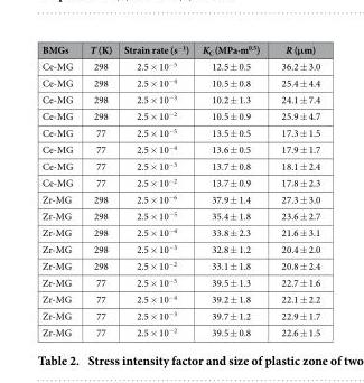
<table><thead><tr><td>BMGs</td><td>T (K)</td><td>Strain rate (s<sup>−1</sup>)</td><td>K<sub>C</sub> (MPa·m<sup>0.5</sup>)</td><td>R (μm)</td></tr></thead><tbody><tr><td>Ce-MG</td><td>298</td><td>2.5 × 10<sup>−5</sup></td><td>12.5 ± 0.5</td><td>36.2 ± 3.0</td></tr><tr><td>Ce-MG</td><td>298</td><td>2.5 × 10<sup>−4</sup></td><td>10.5 ± 0.8</td><td>25.4 ± 4.4</td></tr><tr><td>Ce-MG</td><td>298</td><td>2.5 × 10<sup>−3</sup></td><td>10.2 ± 1.3</td><td>24.1 ± 7.4</td></tr><tr><td>Ce-MG</td><td>298</td><td>2.5 × 10<sup>−2</sup></td><td>10.5 ± 0.9</td><td>25.9 ± 4.7</td></tr><tr><td>Ce-MG</td><td>77</td><td>2.5 × 10<sup>−5</sup></td><td>13.5 ± 0.5</td><td>17.3 ± 1.5</td></tr><tr><td>Ce-MG</td><td>77</td><td>2.5 × 10<sup>−4</sup></td><td>13.6 ± 0.5</td><td>17.9 ± 1.7</td></tr><tr><td>Ce-MG</td><td>77</td><td>2.5 × 10<sup>−3</sup></td><td>13.7 ± 0.8</td><td>18.1 ± 2.4</td></tr><tr><td>Ce-MG</td><td>77</td><td>2.5 × 10<sup>−2</sup></td><td>13.7 ± 0.9</td><td>17.8 ± 2.3</td></tr><tr><td>Zr-MG</td><td>298</td><td>2.5 × 10<sup>−6</sup></td><td>37.9 ± 1.4</td><td>27.3 ± 3.0</td></tr><tr><td>Zr-MG</td><td>298</td><td>2.5 × 10<sup>−5</sup></td><td>35.4 ± 1.8</td><td>23.6 ± 2.7</td></tr><tr><td>Zr-MG</td><td>298</td><td>2.5 × 10<sup>−4</sup></td><td>33.8 ± 2.3</td><td>21.6 ± 3.1</td></tr><tr><td>Zr-MG</td><td>298</td><td>2.5 × 10<sup>−3</sup></td><td>32.8 ± 1.2</td><td>20.4 ± 2.0</td></tr><tr><td>Zr-MG</td><td>298</td><td>2.5 × 10<sup>−2</sup></td><td>33.1 ± 1.8</td><td>20.8 ± 2.4</td></tr><tr><td>Zr-MG</td><td>77</td><td>2.5 × 10<sup>−5</sup></td><td>39.5 ± 1.3</td><td>22.7 ± 1.6</td></tr><tr><td>Zr-MG</td><td>77</td><td>2.5 × 10<sup>−4</sup></td><td>39.2 ± 1.8</td><td>22.1 ± 2.2</td></tr><tr><td>Zr-MG</td><td>77</td><td>2.5 × 10<sup>−3</sup></td><td>39.7 ± 1.2</td><td>22.9 ± 1.7</td></tr><tr><td>Zr-MG</td><td>77</td><td>2.5 × 10<sup>−2</sup></td><td>39.5 ± 0.8</td><td>22.6 ± 1.5</td></tr></tbody></table>